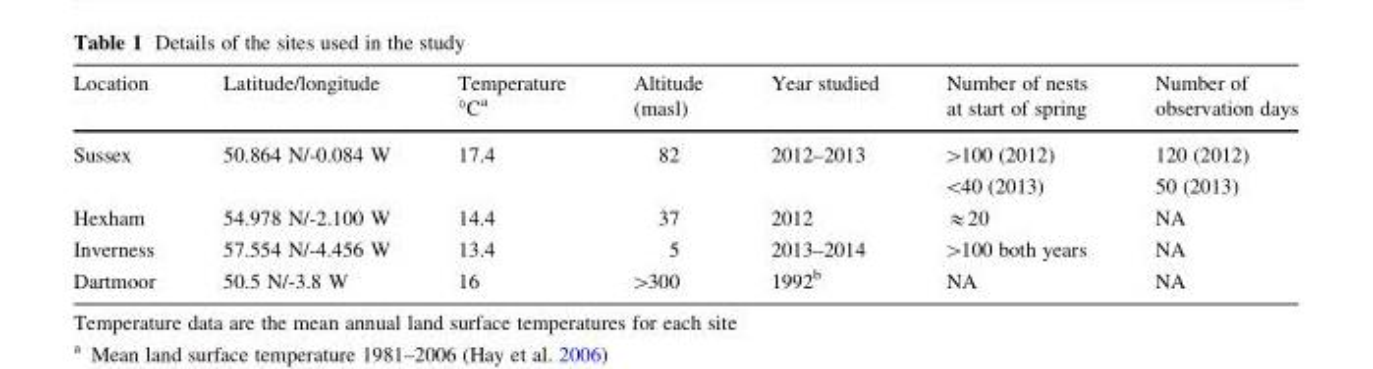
<table><thead><tr><td>Location</td><td>Latitude/longitude</td><td>Temperature °C<sup>a</sup></td><td>Altitude (masl)</td><td>Year studied</td><td>Number of nests at start of spring</td><td>Number of observation days</td></tr></thead><tbody><tr><td>Sussex</td><td>50.864 N/-0.084 W</td><td>17.4</td><td>82</td><td>2012–2013</td><td>&gt;100 (2012) &lt;40 (2013)</td><td>120 (2012) 50 (2013)</td></tr><tr><td>Hexham</td><td>54.978 N/-2.100 W</td><td>14.4</td><td>37</td><td>2012</td><td>≈20</td><td>NA</td></tr><tr><td>Inverness</td><td>57.554 N/-4.456 W</td><td>13.4</td><td>5</td><td>2013–2014</td><td>&gt;100 both years</td><td>NA</td></tr><tr><td>Dartmoor</td><td>50.5 N/-3.8 W</td><td>16</td><td>&gt;300</td><td>1992<sup>b</sup></td><td>NA</td><td>NA</td></tr></tbody></table>